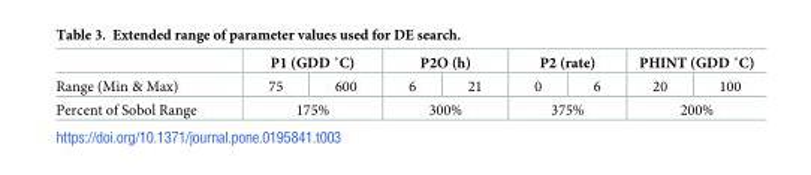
<table><thead><tr><td rowspan="2">Range (Min &amp; Max)</td><td colspan="2">P1 (GDD ˚C)</td><td colspan="2">P2O (h)</td><td colspan="2">P2 (rate)</td><td colspan="2">PHINT (GDD ˚C)</td></tr><tr><td>75</td><td>600</td><td>6</td><td>21</td><td>0</td><td>6</td><td>20</td><td>100</td></tr></thead><tbody><tr><td>Percent of Sobol Range</td><td colspan="2">175%</td><td colspan="2">300%</td><td colspan="2">375%</td><td colspan="2">200%</td></tr></tbody></table>